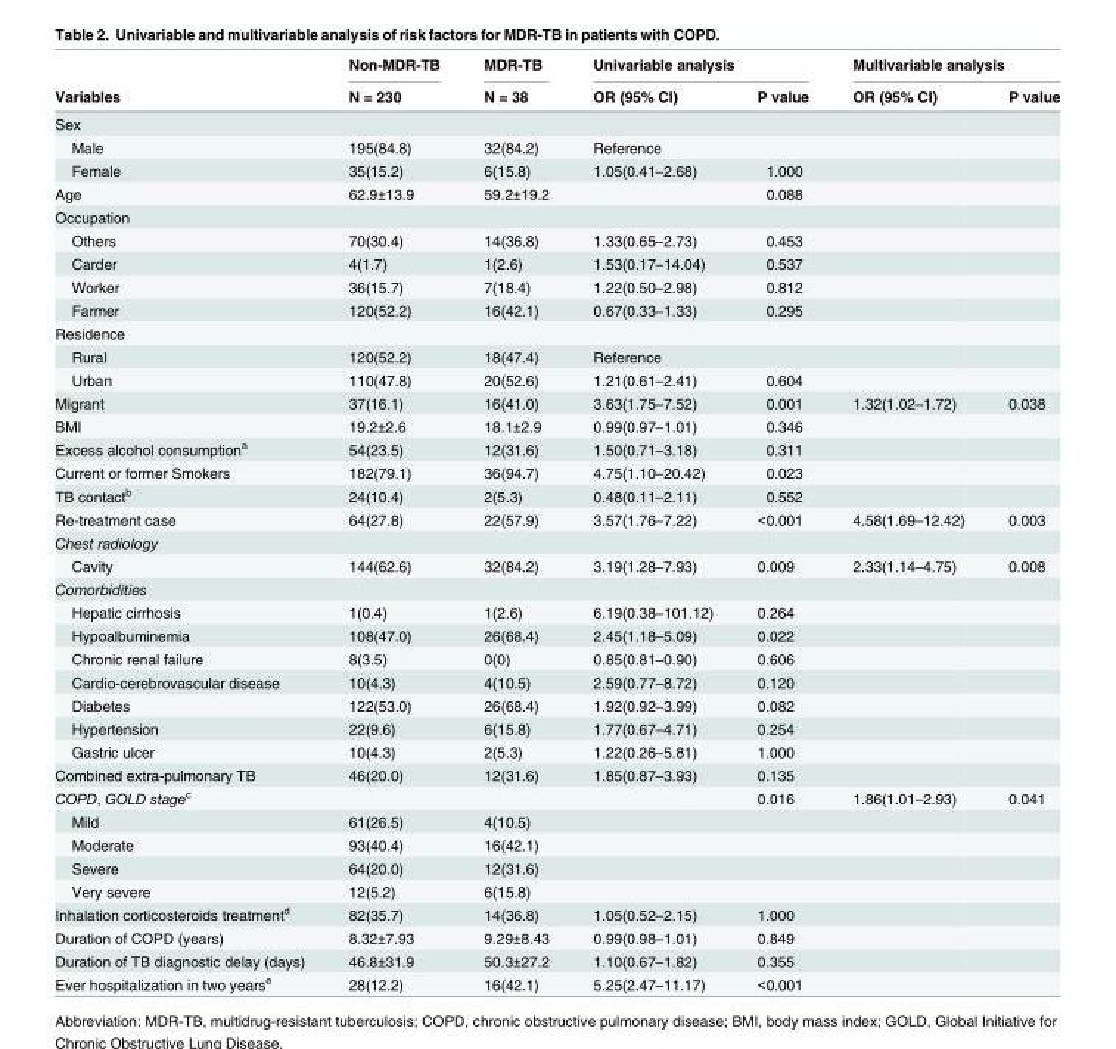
<table><thead><tr><td rowspan="2">Variables</td><td rowspan="2">Non-MDR-TB N = 230</td><td rowspan="2">MDR-TB N = 38</td><td colspan="2">Univariable analysis</td><td colspan="2">Multivariable analysis</td></tr><tr><td>OR (95% CI)</td><td>P value</td><td>OR (95% CI)</td><td>P value</td></tr></thead><tbody><tr><td colspan="7">Sex</td></tr><tr><td>Male</td><td>195(84.8)</td><td>32(84.2)</td><td>Reference</td><td></td><td></td><td></td></tr><tr><td>Female</td><td>35(15.2)</td><td>6(15.8)</td><td>1.05(0.41–2.68)</td><td>1.000</td><td></td><td></td></tr><tr><td>Age</td><td>62.9±13.9</td><td>59.2±19.2</td><td></td><td>0.088</td><td></td><td></td></tr><tr><td colspan="7">Occupation</td></tr><tr><td>Others</td><td>70(30.4)</td><td>14(36.8)</td><td>1.33(0.65–2.73)</td><td>0.453</td><td></td><td></td></tr><tr><td>Carder</td><td>4(1.7)</td><td>1(2.6)</td><td>1.53(0.17–14.04)</td><td>0.537</td><td></td><td></td></tr><tr><td>Worker</td><td>36(15.7)</td><td>7(18.4)</td><td>1.22(0.50–2.98)</td><td>0.812</td><td></td><td></td></tr><tr><td>Farmer</td><td>120(52.2)</td><td>16(42.1)</td><td>0.67(0.33–1.33)</td><td>0.295</td><td></td><td></td></tr><tr><td colspan="7">Residence</td></tr><tr><td>Rural</td><td>120(52.2)</td><td>18(47.4)</td><td>Reference</td><td></td><td></td><td></td></tr><tr><td>Urban</td><td>110(47.8)</td><td>20(52.6)</td><td>1.21(0.61–2.41)</td><td>0.604</td><td></td><td></td></tr><tr><td>Migrant</td><td>37(16.1)</td><td>16(41.0)</td><td>3.63(1.75–7.52)</td><td>0.001</td><td>1.32(1.02–1.72)</td><td>0.038</td></tr><tr><td>BMI</td><td>19.2±2.6</td><td>18.1±2.9</td><td>0.99(0.97–1.01)</td><td>0.346</td><td></td><td></td></tr><tr><td>Excess alcohol consumption<sup>a</sup></td><td>54(23.5)</td><td>12(31.6)</td><td>1.50(0.71–3.18)</td><td>0.311</td><td></td><td></td></tr><tr><td>Current or former Smokers</td><td>182(79.1)</td><td>36(94.7)</td><td>4.75(1.10–20.42)</td><td>0.023</td><td></td><td></td></tr><tr><td>TB contact<sup>b</sup></td><td>24(10.4)</td><td>2(5.3)</td><td>0.48(0.11–2.11)</td><td>0.552</td><td></td><td></td></tr><tr><td>Re-treatment case</td><td>64(27.8)</td><td>22(57.9)</td><td>3.57(1.76–7.22)</td><td>&lt;0.001</td><td>4.58(1.69–12.42)</td><td>0.003</td></tr><tr><td colspan="7">Chest radiology</td></tr><tr><td>Cavity</td><td>144(62.6)</td><td>32(84.2)</td><td>3.19(1.28–7.93)</td><td>0.009</td><td>2.33(1.14–4.75)</td><td>0.008</td></tr><tr><td colspan="7">Comorbidities</td></tr><tr><td>Hepatic cirrhosis</td><td>1(0.4)</td><td>1(2.6)</td><td>6.19(0.38–101.12)</td><td>0.264</td><td></td><td></td></tr><tr><td>Hypoalbuminemia</td><td>108(47.0)</td><td>26(68.4)</td><td>2.45(1.18–5.09)</td><td>0.022</td><td></td><td></td></tr><tr><td>Chronic renal failure</td><td>8(3.5)</td><td>0(0)</td><td>0.85(0.81–0.90)</td><td>0.606</td><td></td><td></td></tr><tr><td>Cardio-cerebrovascular disease</td><td>10(4.3)</td><td>4(10.5)</td><td>2.59(0.77–8.72)</td><td>0.120</td><td></td><td></td></tr><tr><td>Diabetes</td><td>122(53.0)</td><td>26(68.4)</td><td>1.92(0.92–3.99)</td><td>0.082</td><td></td><td></td></tr><tr><td>Hypertension</td><td>22(9.6)</td><td>6(15.8)</td><td>1.77(0.67–4.71)</td><td>0.254</td><td></td><td></td></tr><tr><td>Gastric ulcer</td><td>10(4.3)</td><td>2(5.3)</td><td>1.22(0.26–5.81)</td><td>1.000</td><td></td><td></td></tr><tr><td>Combined extra-pulmonary TB</td><td>46(20.0)</td><td>12(31.6)</td><td>1.85(0.87–3.93)</td><td>0.135</td><td></td><td></td></tr><tr><td>COPD, GOLD stage<sup>c</sup></td><td></td><td></td><td></td><td>0.016</td><td>1.86(1.01–2.93)</td><td>0.041</td></tr><tr><td>Mild</td><td>61(26.5)</td><td>4(10.5)</td><td></td><td></td><td></td><td></td></tr><tr><td>Moderate</td><td>93(40.4)</td><td>16(42.1)</td><td></td><td></td><td></td><td></td></tr><tr><td>Severe</td><td>64(20.0)</td><td>12(31.6)</td><td></td><td></td><td></td><td></td></tr><tr><td>Very severe</td><td>12(5.2)</td><td>6(15.8)</td><td></td><td></td><td></td><td></td></tr><tr><td>Inhalation corticosteroids treatment<sup>d</sup></td><td>82(35.7)</td><td>14(36.8)</td><td>1.05(0.52–2.15)</td><td>1.000</td><td></td><td></td></tr><tr><td>Duration of COPD (years)</td><td>8.32±7.93</td><td>9.29±8.43</td><td>0.99(0.98–1.01)</td><td>0.849</td><td></td><td></td></tr><tr><td>Duration of TB diagnostic delay (days)</td><td>46.8±31.9</td><td>50.3±27.2</td><td>1.10(0.67–1.82)</td><td>0.355</td><td></td><td></td></tr><tr><td>Ever hospitalization in two years<sup>e</sup></td><td>28(12.2)</td><td>16(42.1)</td><td>5.25(2.47–11.17)</td><td>&lt;0.001</td><td></td><td></td></tr></tbody></table>